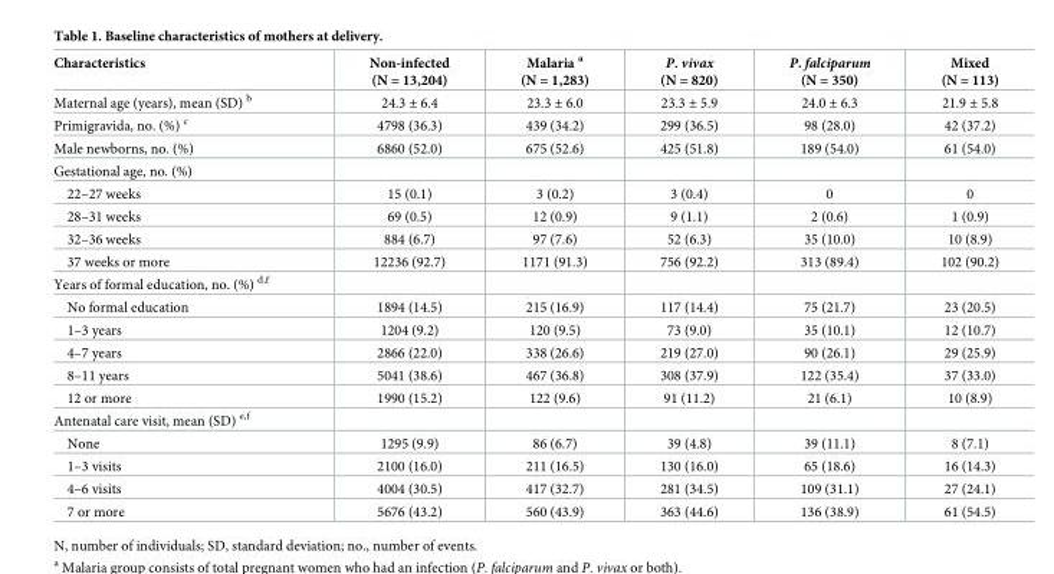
<table><thead><tr><td>Characteristics</td><td>Non-infected (N = 13,204)</td><td>Malaria <sup>a</sup> (N = 1,283)</td><td>P. vivax (N = 820)</td><td>P. falciparum (N = 350)</td><td>Mixed (N = 113)</td></tr></thead><tbody><tr><td>Maternal age (years), mean (SD) <sup>b</sup></td><td>24.3 ± 6.4</td><td>23.3 ± 6.0</td><td>23.3 ± 5.9</td><td>24.0 ± 6.3</td><td>21.9 ± 5.8</td></tr><tr><td>Primigravida, no. (%) <sup>c</sup></td><td>4798 (36.3)</td><td>439 (34.2)</td><td>299 (36.5)</td><td>98 (28.0)</td><td>42 (37.2)</td></tr><tr><td>Male newborns, no. (%)</td><td>6860 (52.0)</td><td>675 (52.6)</td><td>425 (51.8)</td><td>189 (54.0)</td><td>61 (54.0)</td></tr><tr><td colspan="6">Gestational age, no. (%)</td></tr><tr><td>22–27 weeks</td><td>15 (0.1)</td><td>3 (0.2)</td><td>3 (0.4)</td><td>0</td><td>0</td></tr><tr><td>28–31 weeks</td><td>69 (0.5)</td><td>12 (0.9)</td><td>9 (1.1)</td><td>2 (0.6)</td><td>1 (0.9)</td></tr><tr><td>32–36 weeks</td><td>884 (6.7)</td><td>97 (7.6)</td><td>52 (6.3)</td><td>35 (10.0)</td><td>10 (8.9)</td></tr><tr><td>37 weeks or more</td><td>12236 (92.7)</td><td>1171 (91.3)</td><td>756 (92.2)</td><td>313 (89.4)</td><td>102 (90.2)</td></tr><tr><td colspan="6">Years of formal education, no. (%) <sup>d,f</sup></td></tr><tr><td>No formal education</td><td>1894 (14.5)</td><td>215 (16.9)</td><td>117 (14.4)</td><td>75 (21.7)</td><td>23 (20.5)</td></tr><tr><td>1–3 years</td><td>1204 (9.2)</td><td>120 (9.5)</td><td>73 (9.0)</td><td>35 (10.1)</td><td>12 (10.7)</td></tr><tr><td>4–7 years</td><td>2866 (22.0)</td><td>338 (26.6)</td><td>219 (27.0)</td><td>90 (26.1)</td><td>29 (25.9)</td></tr><tr><td>8–11 years</td><td>5041 (38.6)</td><td>467 (36.8)</td><td>308 (37.9)</td><td>122 (35.4)</td><td>37 (33.0)</td></tr><tr><td>12 or more</td><td>1990 (15.2)</td><td>122 (9.6)</td><td>91 (11.2)</td><td>21 (6.1)</td><td>10 (8.9)</td></tr><tr><td colspan="6">Antenatal care visit, mean (SD) <sup>e,f</sup></td></tr><tr><td>None</td><td>1295 (9.9)</td><td>86 (6.7)</td><td>39 (4.8)</td><td>39 (11.1)</td><td>8 (7.1)</td></tr><tr><td>1–3 visits</td><td>2100 (16.0)</td><td>211 (16.5)</td><td>130 (16.0)</td><td>65 (18.6)</td><td>16 (14.3)</td></tr><tr><td>4–6 visits</td><td>4004 (30.5)</td><td>417 (32.7)</td><td>281 (34.5)</td><td>109 (31.1)</td><td>27 (24.1)</td></tr><tr><td>7 or more</td><td>5676 (43.2)</td><td>560 (43.9)</td><td>363 (44.6)</td><td>136 (38.9)</td><td>61 (54.5)</td></tr></tbody></table>